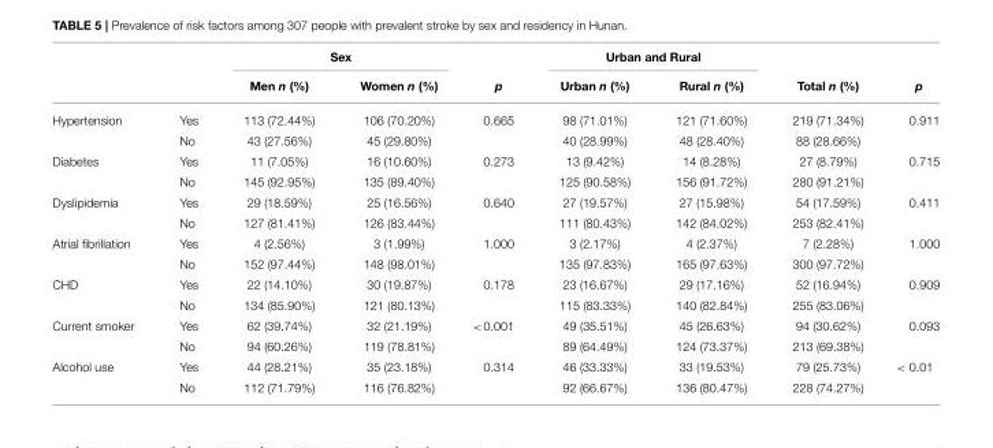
<table><thead><tr><td rowspan="2"></td><td rowspan="2"></td><td colspan="2">Sex</td><td rowspan="2">p</td><td colspan="2">Urban and Rural</td><td rowspan="2">Total n (%)</td><td rowspan="2">p</td></tr><tr><td>Men n (%)</td><td>Women n (%)</td><td>Urban n (%)</td><td>Rural n (%)</td></tr></thead><tbody><tr><td rowspan="2">Hypertension</td><td>Yes</td><td>113 (72.44%)</td><td>106 (70.20%)</td><td>0.665</td><td>98 (71.01%)</td><td>121 (71.60%)</td><td>219 (71.34%)</td><td>0.911</td></tr><tr><td>No</td><td>43 (27.56%)</td><td>45 (29.80%)</td><td></td><td>40 (28.99%)</td><td>48 (28.40%)</td><td>88 (28.66%)</td><td></td></tr><tr><td rowspan="2">Diabetes</td><td>Yes</td><td>11 (7.05%)</td><td>16 (10.60%)</td><td>0.273</td><td>13 (9.42%)</td><td>14 (8.28%)</td><td>27 (8.79%)</td><td>0.715</td></tr><tr><td>No</td><td>145 (92.95%)</td><td>135 (89.40%)</td><td></td><td>125 (90.58%)</td><td>156 (91.72%)</td><td>280 (91.21%)</td><td></td></tr><tr><td rowspan="2">Dyslipidemia</td><td>Yes</td><td>29 (18.59%)</td><td>25 (16.56%)</td><td>0.640</td><td>27 (19.57%)</td><td>27 (15.98%)</td><td>54 (17.59%)</td><td>0.411</td></tr><tr><td>No</td><td>127 (81.41%)</td><td>126 (83.44%)</td><td></td><td>111 (80.43%)</td><td>142 (84.02%)</td><td>253 (82.41%)</td><td></td></tr><tr><td rowspan="2">Atrial fibrillation</td><td>Yes</td><td>4 (2.56%)</td><td>3 (1.99%)</td><td>1.000</td><td>3 (2.17%)</td><td>4 (2.37%)</td><td>7 (2.28%)</td><td>1.000</td></tr><tr><td>No</td><td>152 (97.44%)</td><td>148 (98.01%)</td><td></td><td>135 (97.83%)</td><td>165 (97.63%)</td><td>300 (97.72%)</td><td></td></tr><tr><td rowspan="2">CHD</td><td>Yes</td><td>22 (14.10%)</td><td>30 (19.87%)</td><td>0.178</td><td>23 (16.67%)</td><td>29 (17.16%)</td><td>52 (16.94%)</td><td>0.909</td></tr><tr><td>No</td><td>134 (85.90%)</td><td>121 (80.13%)</td><td></td><td>115 (83.33%)</td><td>140 (82.84%)</td><td>255 (83.06%)</td><td></td></tr><tr><td rowspan="2">Current smoker</td><td>Yes</td><td>62 (39.74%)</td><td>32 (21.19%)</td><td>&lt;0.001</td><td>49 (35.51%)</td><td>45 (26.63%)</td><td>94 (30.62%)</td><td>0.093</td></tr><tr><td>No</td><td>94 (60.26%)</td><td>119 (78.81%)</td><td></td><td>89 (64.49%)</td><td>124 (73.37%)</td><td>213 (69.38%)</td><td></td></tr><tr><td rowspan="2">Alcohol use</td><td>Yes</td><td>44 (28.21%)</td><td>35 (23.18%)</td><td>0.314</td><td>46 (33.33%)</td><td>33 (19.53%)</td><td>79 (25.73%)</td><td>&lt; 0.01</td></tr><tr><td>No</td><td>112 (71.79%)</td><td>116 (76.82%)</td><td></td><td>92 (66.67%)</td><td>136 (80.47%)</td><td>228 (74.27%)</td><td></td></tr></tbody></table>